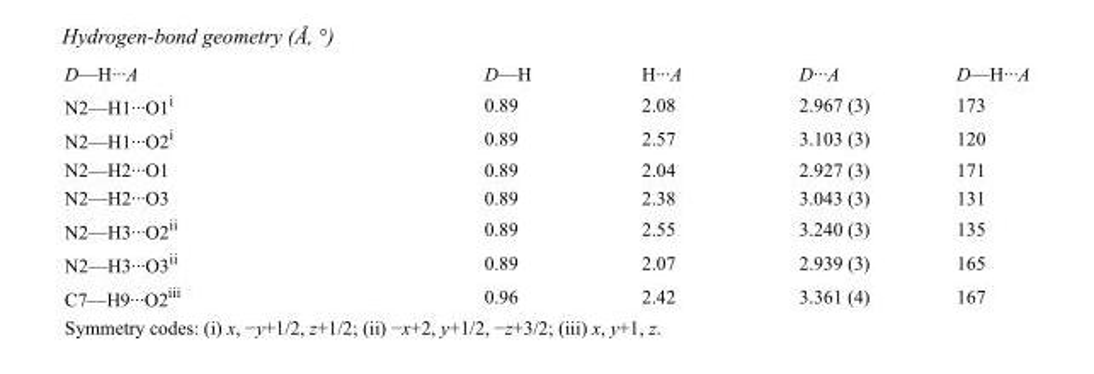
<table><tbody><tr><td>D—H···A</td><td>D—H</td><td>H···A</td><td>D···A</td><td>D—H···A</td></tr><tr><td>N2—H1···O1<sup>i</sup></td><td>0.89</td><td>2.08</td><td>2.967 (3)</td><td>173</td></tr><tr><td>N2—H1···O2<sup>i</sup></td><td>0.89</td><td>2.57</td><td>3.103 (3)</td><td>120</td></tr><tr><td>N2—H2···O1</td><td>0.89</td><td>2.04</td><td>2.927 (3)</td><td>171</td></tr><tr><td>N2—H2···O3</td><td>0.89</td><td>2.38</td><td>3.043 (3)</td><td>131</td></tr><tr><td>N2—H3···O2<sup>ii</sup></td><td>0.89</td><td>2.55</td><td>3.240 (3)</td><td>135</td></tr><tr><td>N2—H3···O3<sup>ii</sup></td><td>0.89</td><td>2.07</td><td>2.939 (3)</td><td>165</td></tr><tr><td>C7—H9···O2<sup>iii</sup></td><td>0.96</td><td>2.42</td><td>3.361 (4)</td><td>167</td></tr></tbody></table>